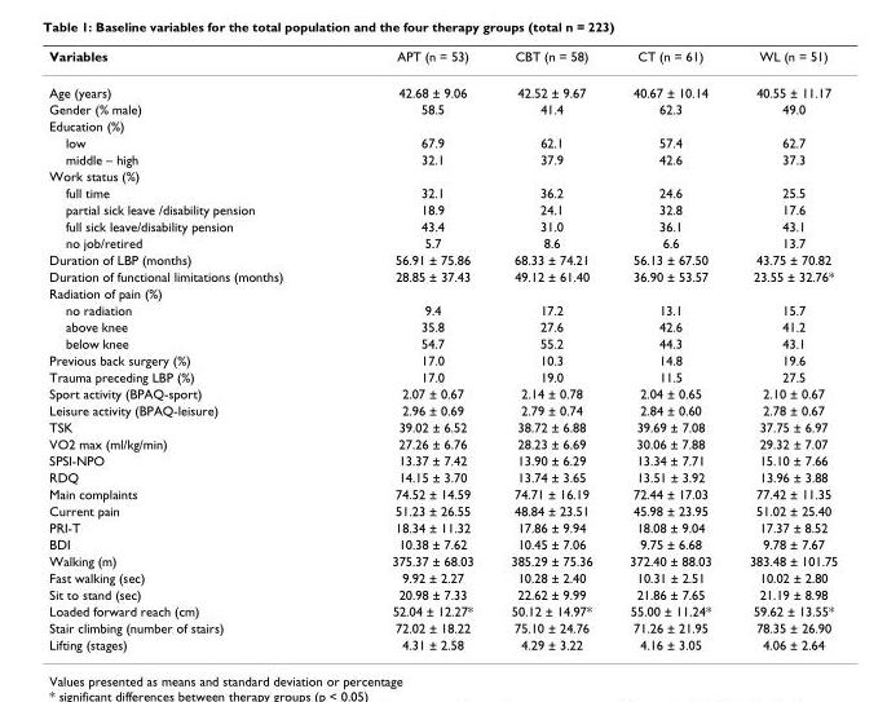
<table><thead><tr><td>Variables</td><td>APT (n = 53)</td><td>CBT (n = 58)</td><td>CT (n = 61)</td><td>WL (n = 51)</td></tr></thead><tbody><tr><td>Age (years)</td><td>42.68 ± 9.06</td><td>42.52 ± 9.67</td><td>40.67 ± 10.14</td><td>40.55 ± 11.17</td></tr><tr><td>Gender (% male)</td><td>58.5</td><td>41.4</td><td>62.3</td><td>49.0</td></tr><tr><td colspan="5">Education (%)</td></tr><tr><td>low</td><td>67.9</td><td>62.1</td><td>57.4</td><td>62.7</td></tr><tr><td>middle – high</td><td>32.1</td><td>37.9</td><td>42.6</td><td>37.3</td></tr><tr><td colspan="5">Work status (%)</td></tr><tr><td>full time</td><td>32.1</td><td>36.2</td><td>24.6</td><td>25.5</td></tr><tr><td>partial sick leave /disability pension</td><td>18.9</td><td>24.1</td><td>32.8</td><td>17.6</td></tr><tr><td>full sick leave/disability pension</td><td>43.4</td><td>31.0</td><td>36.1</td><td>43.1</td></tr><tr><td>no job/retired</td><td>5.7</td><td>8.6</td><td>6.6</td><td>13.7</td></tr><tr><td>Duration of LBP (months)</td><td>56.91 ± 75.86</td><td>68.33 ± 74.21</td><td>56.13 ± 67.50</td><td>43.75 ± 70.82</td></tr><tr><td>Duration of functional limitations (months)</td><td>28.85 ± 37.43</td><td>49.12 ± 61.40</td><td>36.90 ± 53.57</td><td>23.55 ± 32.76*</td></tr><tr><td colspan="5">Radiation of pain (%)</td></tr><tr><td>no radiation</td><td>9.4</td><td>17.2</td><td>13.1</td><td>15.7</td></tr><tr><td>above knee</td><td>35.8</td><td>27.6</td><td>42.6</td><td>41.2</td></tr><tr><td>below knee</td><td>54.7</td><td>55.2</td><td>44.3</td><td>43.1</td></tr><tr><td>Previous back surgery (%)</td><td>17.0</td><td>10.3</td><td>14.8</td><td>19.6</td></tr><tr><td>Trauma preceding LBP (%)</td><td>17.0</td><td>19.0</td><td>11.5</td><td>27.5</td></tr><tr><td>Sport activity (BPAQ-sport)</td><td>2.07 ± 0.67</td><td>2.14 ± 0.78</td><td>2.04 ± 0.65</td><td>2.10 ± 0.67</td></tr><tr><td>Leisure activity (BPAQ-leisure)</td><td>2.96 ± 0.69</td><td>2.79 ± 0.74</td><td>2.84 ± 0.60</td><td>2.78 ± 0.67</td></tr><tr><td>TSK</td><td>39.02 ± 6.52</td><td>38.72 ± 6.88</td><td>39.69 ± 7.08</td><td>37.75 ± 6.97</td></tr><tr><td>VO2 max (ml/kg/min)</td><td>27.26 ± 6.76</td><td>28.23 ± 6.69</td><td>30.06 ± 7.88</td><td>29.32 ± 7.07</td></tr><tr><td>SPSI-NPO</td><td>13.37 ± 7.42</td><td>13.90 ± 6.29</td><td>13.34 ± 7.71</td><td>15.10 ± 7.66</td></tr><tr><td>RDQ</td><td>14.15 ± 3.70</td><td>13.74 ± 3.65</td><td>13.51 ± 3.92</td><td>13.96 ± 3.88</td></tr><tr><td>Main complaints</td><td>74.52 ± 14.59</td><td>74.71 ± 16.19</td><td>72.44 ± 17.03</td><td>77.42 ± 11.35</td></tr><tr><td>Current pain</td><td>51.23 ± 26.55</td><td>48.84 ± 23.51</td><td>45.98 ± 23.95</td><td>51.02 ± 25.40</td></tr><tr><td>PRI-T</td><td>18.34 ± 11.32</td><td>17.86 ± 9.94</td><td>18.08 ± 9.04</td><td>17.37 ± 8.52</td></tr><tr><td>BDI</td><td>10.38 ± 7.62</td><td>10.45 ± 7.06</td><td>9.75 ± 6.68</td><td>9.78 ± 7.67</td></tr><tr><td>Walking (m)</td><td>375.37 ± 68.03</td><td>385.29 ± 75.36</td><td>372.40 ± 88.03</td><td>383.48 ± 101.75</td></tr><tr><td>Fast walking (sec)</td><td>9.92 ± 2.27</td><td>10.28 ± 2.40</td><td>10.31 ± 2.51</td><td>10.02 ± 2.80</td></tr><tr><td>Sit to stand (sec)</td><td>20.98 ± 7.33</td><td>22.62 ± 9.99</td><td>21.86 ± 7.65</td><td>21.19 ± 8.98</td></tr><tr><td>Loaded forward reach (cm)</td><td>52.04 ± 12.27*</td><td>50.12 ± 14.97*</td><td>55.00 ± 11.24*</td><td>59.62 ± 13.55*</td></tr><tr><td>Stair climbing (number of stairs)</td><td>72.02 ± 18.22</td><td>75.10 ± 24.76</td><td>71.26 ± 21.95</td><td>78.35 ± 26.90</td></tr><tr><td>Lifting (stages)</td><td>4.31 ± 2.58</td><td>4.29 ± 3.22</td><td>4.16 ± 3.05</td><td>4.06 ± 2.64</td></tr></tbody></table>